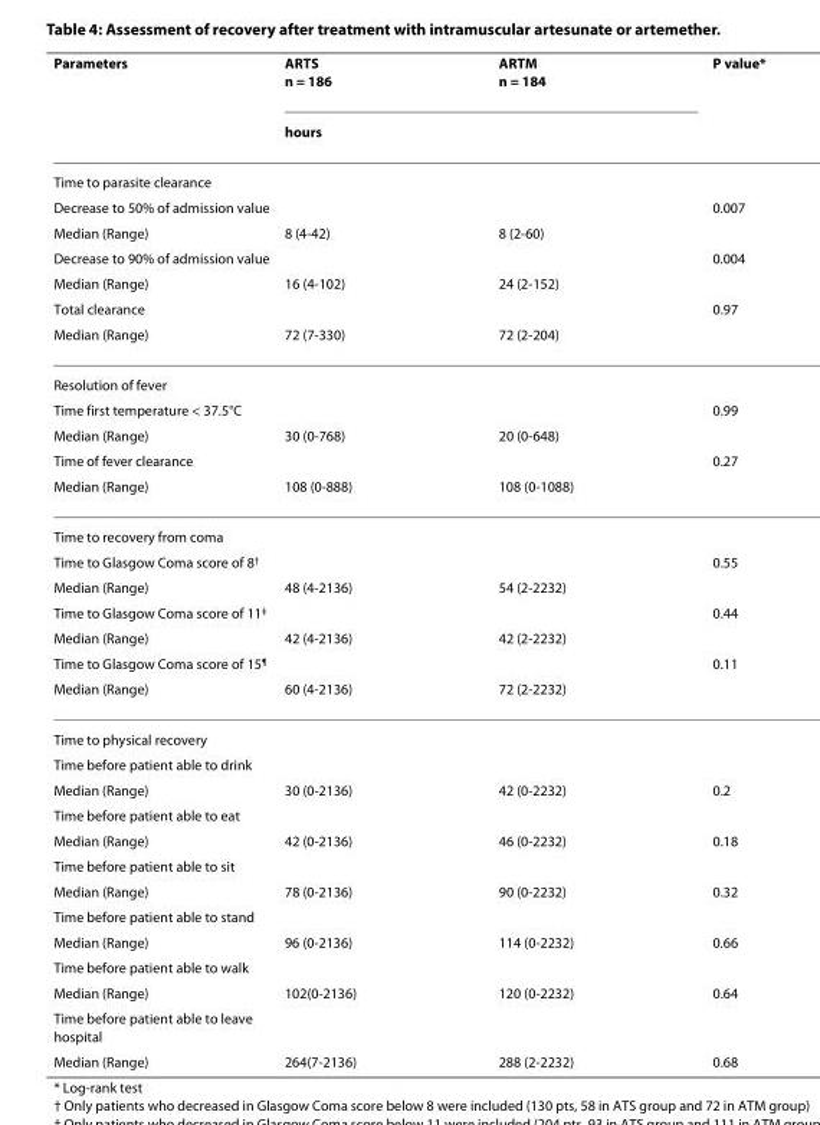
<table><thead><tr><td rowspan="2">Parameters</td><td>ARTS n = 186</td><td>ARTM n = 184</td><td rowspan="2">P value*</td></tr><tr><td colspan="2">hours</td></tr></thead><tbody><tr><td colspan="4">Time to parasite clearance</td></tr><tr><td>Decrease to 50% of admission value</td><td></td><td></td><td>0.007</td></tr><tr><td>Median (Range)</td><td>8 (4-42)</td><td>8 (2-60)</td><td></td></tr><tr><td>Decrease to 90% of admission value</td><td></td><td></td><td>0.004</td></tr><tr><td>Median (Range)</td><td>16 (4-102)</td><td>24 (2-152)</td><td></td></tr><tr><td>Total clearance</td><td></td><td></td><td>0.97</td></tr><tr><td>Median (Range)</td><td>72 (7-330)</td><td>72 (2-204)</td><td></td></tr><tr><td colspan="4">Resolution of fever</td></tr><tr><td>Time first temperature &lt; 37.5°C</td><td></td><td></td><td>0.99</td></tr><tr><td>Median (Range)</td><td>30 (0-768)</td><td>20 (0-648)</td><td></td></tr><tr><td>Time of fever clearance</td><td></td><td></td><td>0.27</td></tr><tr><td>Median (Range)</td><td>108 (0-888)</td><td>108 (0-1088)</td><td></td></tr><tr><td colspan="4">Time to recovery from coma</td></tr><tr><td>Time to Glasgow Coma score of 8<sup>†</sup></td><td></td><td></td><td>0.55</td></tr><tr><td>Median (Range)</td><td>48 (4-2136)</td><td>54 (2-2232)</td><td></td></tr><tr><td>Time to Glasgow Coma score of 11<sup>‡</sup></td><td></td><td></td><td>0.44</td></tr><tr><td>Median (Range)</td><td>42 (4-2136)</td><td>42 (2-2232)</td><td></td></tr><tr><td>Time to Glasgow Coma score of 15<sup>¶</sup></td><td></td><td></td><td>0.11</td></tr><tr><td>Median (Range)</td><td>60 (4-2136)</td><td>72 (2-2232)</td><td></td></tr><tr><td colspan="4">Time to physical recovery</td></tr><tr><td colspan="4">Time before patient able to drink</td></tr><tr><td>Median (Range)</td><td>30 (0-2136)</td><td>42 (0-2232)</td><td>0.2</td></tr><tr><td colspan="4">Time before patient able to eat</td></tr><tr><td>Median (Range)</td><td>42 (0-2136)</td><td>46 (0-2232)</td><td>0.18</td></tr><tr><td colspan="4">Time before patient able to sit</td></tr><tr><td>Median (Range)</td><td>78 (0-2136)</td><td>90 (0-2232)</td><td>0.32</td></tr><tr><td colspan="4">Time before patient able to stand</td></tr><tr><td>Median (Range)</td><td>96 (0-2136)</td><td>114 (0-2232)</td><td>0.66</td></tr><tr><td colspan="4">Time before patient able to walk</td></tr><tr><td>Median (Range)</td><td>102(0-2136)</td><td>120 (0-2232)</td><td>0.64</td></tr><tr><td colspan="4">Time before patient able to leave hospital</td></tr><tr><td>Median (Range)</td><td>264(7-2136)</td><td>288 (2-2232)</td><td>0.68</td></tr></tbody></table>